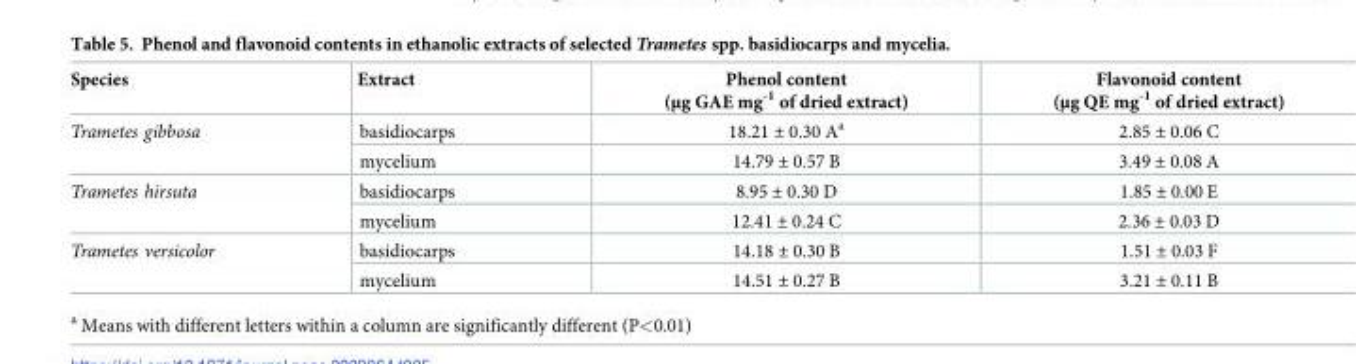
<table><thead><tr><td>Species</td><td>Extract</td><td>Phenol content (μg GAE mg<sup>-1</sup> of dried extract)</td><td>Flavonoid content (μg QE mg<sup>-1</sup> of dried extract)</td></tr></thead><tbody><tr><td rowspan="2">Trametes gibbosa</td><td>basidiocarps</td><td>18.21 ± 0.30 A<sup>a</sup></td><td>2.85 ± 0.06 C</td></tr><tr><td>mycelium</td><td>14.79 ± 0.57 B</td><td>3.49 ± 0.08 A</td></tr><tr><td rowspan="2">Trametes hirsuta</td><td>basidiocarps</td><td>8.95 ± 0.30 D</td><td>1.85 ± 0.00 E</td></tr><tr><td>mycelium</td><td>12.41 ± 0.24 C</td><td>2.36 ± 0.03 D</td></tr><tr><td rowspan="2">Trametes versicolor</td><td>basidiocarps</td><td>14.18 ± 0.30 B</td><td>1.51 ± 0.03 F</td></tr><tr><td>mycelium</td><td>14.51 ± 0.27 B</td><td>3.21 ± 0.11 B</td></tr></tbody></table>